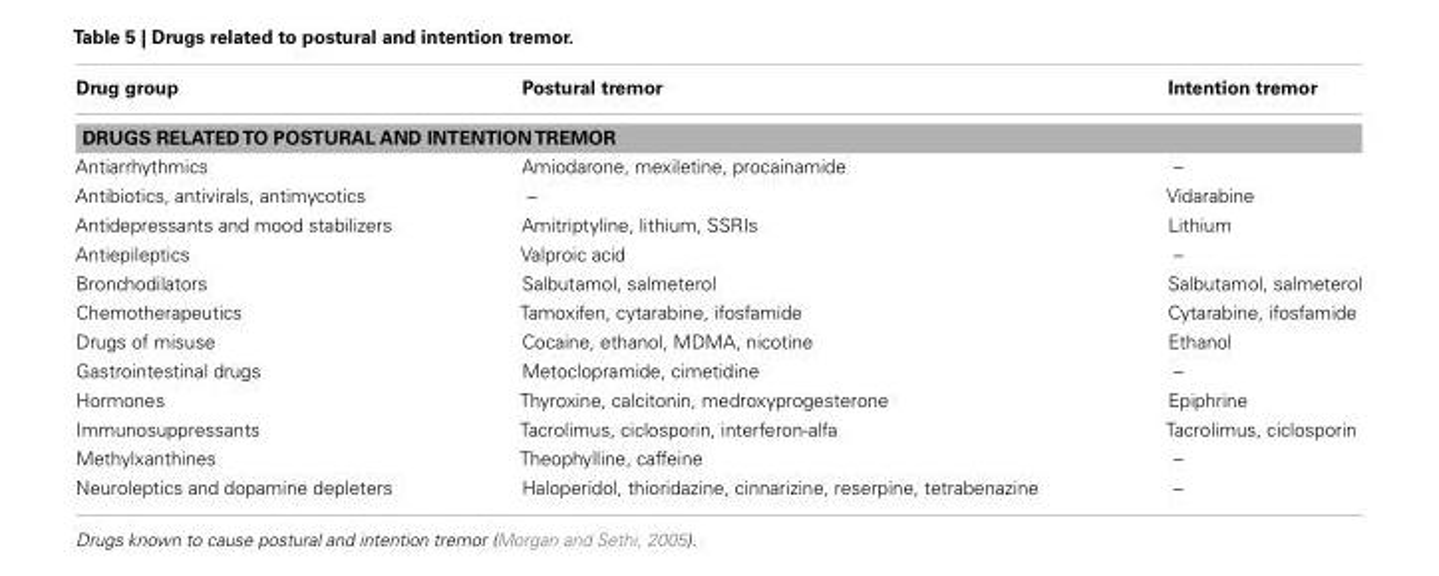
<table><thead><tr><td>Drug group</td><td>Postural tremor</td><td>Intention tremor</td></tr></thead><tbody><tr><td colspan="3">DRUGS RELATEDTO POSTURAL AND INTENTIONTREMOR</td></tr><tr><td>Antiarrhythmics</td><td>Amiodarone, mexiletine, procainamide</td><td>–</td></tr><tr><td>Antibiotics, antivirals, antimycotics</td><td>–</td><td>Vidarabine</td></tr><tr><td>Antidepressants and mood stabilizers</td><td>Amitriptyline, lithium, SSRIs</td><td>Lithium</td></tr><tr><td>Antiepileptics</td><td>Valproic acid</td><td>–</td></tr><tr><td>Bronchodilators</td><td>Salbutamol, salmeterol</td><td>Salbutamol, salmeterol</td></tr><tr><td>Chemotherapeutics</td><td>Tamoxifen, cytarabine, ifosfamide</td><td>Cytarabine, ifosfamide</td></tr><tr><td>Drugs of misuse</td><td>Cocaine, ethanol, MDMA, nicotine</td><td>Ethanol</td></tr><tr><td>Gastrointestinal drugs</td><td>Metoclopramide, cimetidine</td><td>–</td></tr><tr><td>Hormones</td><td>Thyroxine, calcitonin, medroxyprogesterone</td><td>Epiphrine</td></tr><tr><td>Immunosuppressants</td><td>Tacrolimus, ciclosporin, interferon-alfa</td><td>Tacrolimus, ciclosporin</td></tr><tr><td>Methylxanthines</td><td>Theophylline, caffeine</td><td>–</td></tr><tr><td>Neuroleptics and dopamine depleters</td><td>Haloperidol, thioridazine, cinnarizine, reserpine, tetrabenazine</td><td>–</td></tr></tbody></table>